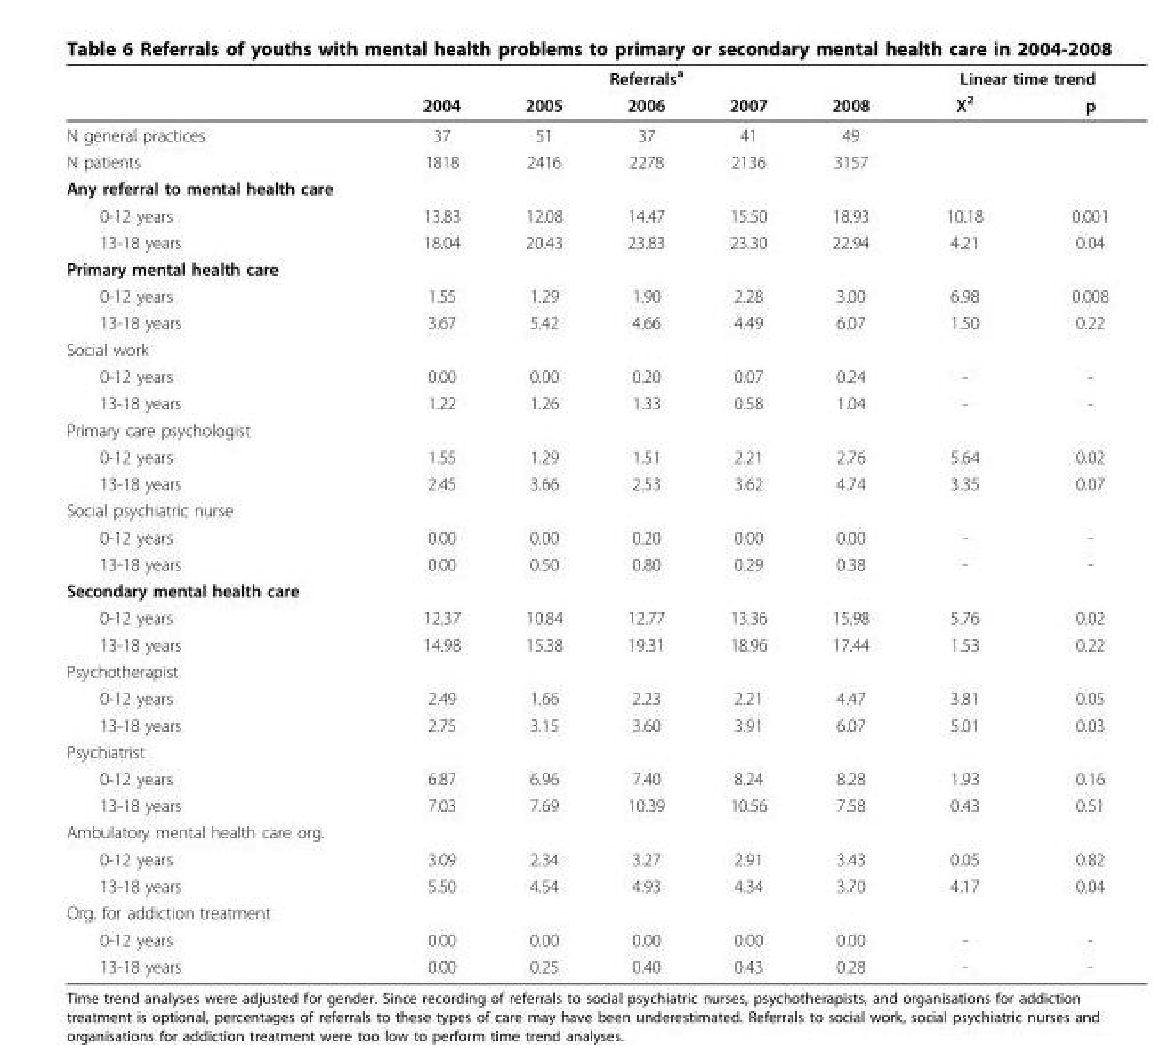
<table><thead><tr><td rowspan="2"></td><td colspan="5">Referrals<sup>a</sup></td><td colspan="2">Linear time trend</td></tr><tr><td>2004</td><td>2005</td><td>2006</td><td>2007</td><td>2008</td><td>X<sup>2</sup></td><td>p</td></tr></thead><tbody><tr><td>N general practices</td><td>37</td><td>51</td><td>37</td><td>41</td><td>49</td><td></td><td></td></tr><tr><td>N patients</td><td>1818</td><td>2416</td><td>2278</td><td>2136</td><td>3157</td><td></td><td></td></tr><tr><td colspan="8">Any referral to mental health care</td></tr><tr><td>0-12 years</td><td>13.83</td><td>12.08</td><td>14.47</td><td>15.50</td><td>18.93</td><td>10.18</td><td>0.001</td></tr><tr><td>13-18 years</td><td>18.04</td><td>20.43</td><td>23.83</td><td>23.30</td><td>22.94</td><td>4.21</td><td>0.04</td></tr><tr><td colspan="8">Primary mental health care</td></tr><tr><td>0-12 years</td><td>1.55</td><td>1.29</td><td>1.90</td><td>2.28</td><td>3.00</td><td>6.98</td><td>0.008</td></tr><tr><td>13-18 years</td><td>3.67</td><td>5.42</td><td>4.66</td><td>4.49</td><td>6.07</td><td>1.50</td><td>0.22</td></tr><tr><td colspan="8">Social work</td></tr><tr><td>0-12 years</td><td>0.00</td><td>0.00</td><td>0.20</td><td>0.07</td><td>0.24</td><td>-</td><td>-</td></tr><tr><td>13-18 years</td><td>1.22</td><td>1.26</td><td>1.33</td><td>0.58</td><td>1.04</td><td>-</td><td>-</td></tr><tr><td colspan="8">Primary care psychologist</td></tr><tr><td>0-12 years</td><td>1.55</td><td>1.29</td><td>1.51</td><td>2.21</td><td>2.76</td><td>5.64</td><td>0.02</td></tr><tr><td>13-18 years</td><td>2.45</td><td>3.66</td><td>2.53</td><td>3.62</td><td>4.74</td><td>3.35</td><td>0.07</td></tr><tr><td colspan="8">Social psychiatric nurse</td></tr><tr><td>0-12 years</td><td>0.00</td><td>0.00</td><td>0.20</td><td>0.00</td><td>0.00</td><td>-</td><td>-</td></tr><tr><td>13-18 years</td><td>0.00</td><td>0.50</td><td>0.80</td><td>0.29</td><td>0.38</td><td>-</td><td>-</td></tr><tr><td colspan="8">Secondary mental health care</td></tr><tr><td>0-12 years</td><td>12.37</td><td>10.84</td><td>12.77</td><td>13.36</td><td>15.98</td><td>5.76</td><td>0.02</td></tr><tr><td>13-18 years</td><td>14.98</td><td>15.38</td><td>19.31</td><td>18.96</td><td>17.44</td><td>1.53</td><td>0.22</td></tr><tr><td colspan="8">Psychotherapist</td></tr><tr><td>0-12 years</td><td>2.49</td><td>1.66</td><td>2.23</td><td>2.21</td><td>4.47</td><td>3.81</td><td>0.05</td></tr><tr><td>13-18 years</td><td>2.75</td><td>3.15</td><td>3.60</td><td>3.91</td><td>6.07</td><td>5.01</td><td>0.03</td></tr><tr><td colspan="8">Psychiatrist</td></tr><tr><td>0-12 years</td><td>6.87</td><td>6.96</td><td>7.40</td><td>8.24</td><td>8.28</td><td>1.93</td><td>0.16</td></tr><tr><td>13-18 years</td><td>7.03</td><td>7.69</td><td>10.39</td><td>10.56</td><td>7.58</td><td>0.43</td><td>0.51</td></tr><tr><td colspan="8">Ambulatory mental health care org.</td></tr><tr><td>0-12 years</td><td>3.09</td><td>2.34</td><td>3.27</td><td>2.91</td><td>3.43</td><td>0.05</td><td>0.82</td></tr><tr><td>13-18 years</td><td>5.50</td><td>4.54</td><td>4.93</td><td>4.34</td><td>3.70</td><td>4.17</td><td>0.04</td></tr><tr><td colspan="8">Org. for addiction treatment</td></tr><tr><td>0-12 years</td><td>0.00</td><td>0.00</td><td>0.00</td><td>0.00</td><td>0.00</td><td>-</td><td>-</td></tr><tr><td>13-18 years</td><td>0.00</td><td>0.25</td><td>0.40</td><td>0.43</td><td>0.28</td><td>-</td><td>-</td></tr></tbody></table>